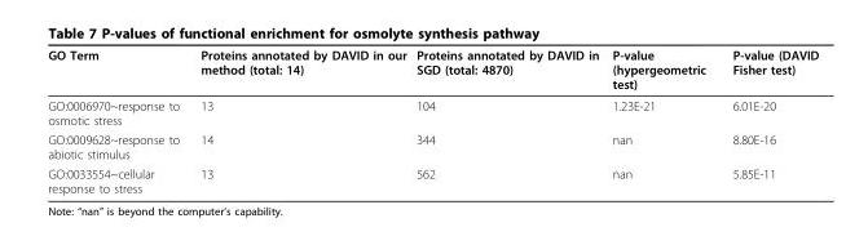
<table><thead><tr><td>GO Term</td><td>Proteins annotated by DAVID in our method (total: 14)</td><td>Proteins annotated by DAVID in SGD (total: 4870)</td><td>P-value (hypergeometric test)</td><td>P-value (DAVID Fisher test)</td></tr></thead><tbody><tr><td>GO:0006970~response to osmotic stress</td><td>13</td><td>104</td><td>1.23E-21</td><td>6.01E-20</td></tr><tr><td>GO:0009628~response to abiotic stimulus</td><td>14</td><td>344</td><td>nan</td><td>8.80E-16</td></tr><tr><td>GO:0033554~cellular response to stress</td><td>13</td><td>562</td><td>nan</td><td>5.85E-11</td></tr></tbody></table>